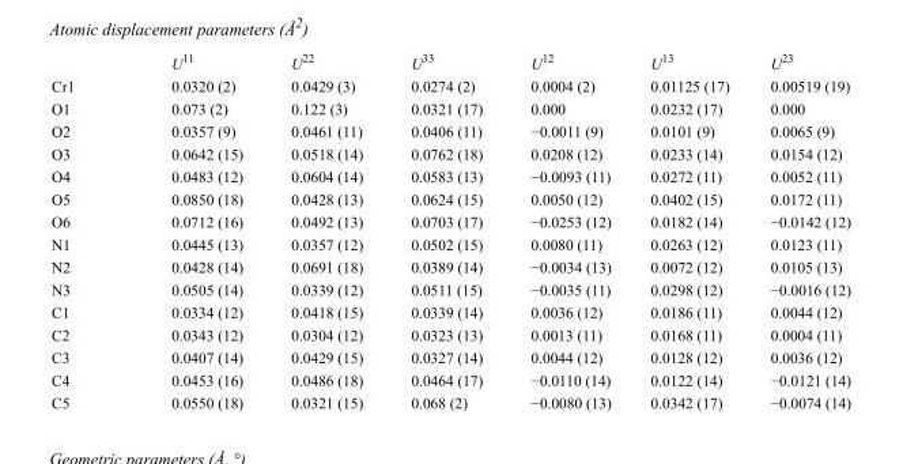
<table><thead><tr><td></td><td>U<sup>11</sup></td><td>U<sup>22</sup></td><td>U<sup>33</sup></td><td>U<sup>12</sup></td><td>U<sup>13</sup></td><td>U<sup>23</sup></td></tr></thead><tbody><tr><td>Cr1</td><td>0.0320 (2)</td><td>0.0429 (3)</td><td>0.0274 (2)</td><td>0.0004 (2)</td><td>0.01125 (17)</td><td>0.00519 (19)</td></tr><tr><td>O1</td><td>0.073 (2)</td><td>0.122 (3)</td><td>0.0321 (17)</td><td>0.000</td><td>0.0232 (17)</td><td>0.000</td></tr><tr><td>O2</td><td>0.0357 (9)</td><td>0.0461 (11)</td><td>0.0406 (11)</td><td>−0.0011 (9)</td><td>0.0101 (9)</td><td>0.0065 (9)</td></tr><tr><td>O3</td><td>0.0642 (15)</td><td>0.0518 (14)</td><td>0.0762 (18)</td><td>0.0208 (12)</td><td>0.0233 (14)</td><td>0.0154 (12)</td></tr><tr><td>O4</td><td>0.0483 (12)</td><td>0.0604 (14)</td><td>0.0583 (13)</td><td>−0.0093 (11)</td><td>0.0272 (11)</td><td>0.0052 (11)</td></tr><tr><td>O5</td><td>0.0850 (18)</td><td>0.0428 (13)</td><td>0.0624 (15)</td><td>0.0050 (12)</td><td>0.0402 (15)</td><td>0.0172 (11)</td></tr><tr><td>O6</td><td>0.0712 (16)</td><td>0.0492 (13)</td><td>0.0703 (17)</td><td>−0.0253 (12)</td><td>0.0182 (14)</td><td>−0.0142 (12)</td></tr><tr><td>N1</td><td>0.0445 (13)</td><td>0.0357 (12)</td><td>0.0502 (15)</td><td>0.0080 (11)</td><td>0.0263 (12)</td><td>0.0123 (11)</td></tr><tr><td>N2</td><td>0.0428 (14)</td><td>0.0691 (18)</td><td>0.0389 (14)</td><td>−0.0034 (13)</td><td>0.0072 (12)</td><td>0.0105 (13)</td></tr><tr><td>N3</td><td>0.0505 (14)</td><td>0.0339 (12)</td><td>0.0511 (15)</td><td>−0.0035 (11)</td><td>0.0298 (12)</td><td>−0.0016 (12)</td></tr><tr><td>C1</td><td>0.0334 (12)</td><td>0.0418 (15)</td><td>0.0339 (14)</td><td>0.0036 (12)</td><td>0.0186 (11)</td><td>0.0044 (12)</td></tr><tr><td>C2</td><td>0.0343 (12)</td><td>0.0304 (12)</td><td>0.0323 (13)</td><td>0.0013 (11)</td><td>0.0168 (11)</td><td>0.0004 (11)</td></tr><tr><td>C3</td><td>0.0407 (14)</td><td>0.0429 (15)</td><td>0.0327 (14)</td><td>0.0044 (12)</td><td>0.0128 (12)</td><td>0.0036 (12)</td></tr><tr><td>C4</td><td>0.0453 (16)</td><td>0.0486 (18)</td><td>0.0464 (17)</td><td>−0.0110 (14)</td><td>0.0122 (14)</td><td>−0.0121 (14)</td></tr><tr><td>C5</td><td>0.0550 (18)</td><td>0.0321 (15)</td><td>0.068 (2)</td><td>−0.0080 (13)</td><td>0.0342 (17)</td><td>−0.0074 (14)</td></tr></tbody></table>